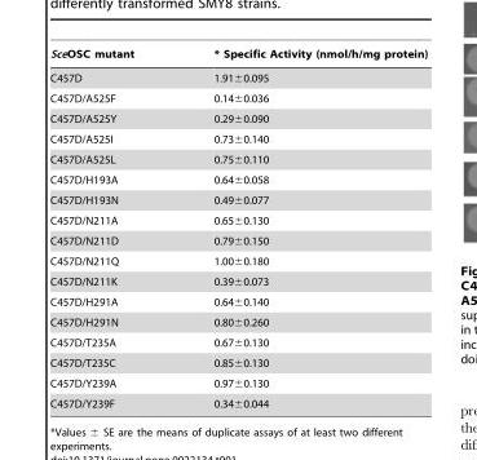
<table><thead><tr><td>SceOSC mutant</td><td>* Specific Activity (nmol/h/mg protein)</td></tr></thead><tbody><tr><td>C457D</td><td>1.91±0.095</td></tr><tr><td>C457D/A525F</td><td>0.14±0.036</td></tr><tr><td>C457D/A525Y</td><td>0.29±0.090</td></tr><tr><td>C457D/A525I</td><td>0.73±0.140</td></tr><tr><td>C457D/A525L</td><td>0.75±0.110</td></tr><tr><td>C457D/H193A</td><td>0.64±0.058</td></tr><tr><td>C457D/H193N</td><td>0.49±0.077</td></tr><tr><td>C457D/N211A</td><td>0.65±0.130</td></tr><tr><td>C457D/N211D</td><td>0.79±0.150</td></tr><tr><td>C457D/N211Q</td><td>1.00±0.180</td></tr><tr><td>C457D/N211K</td><td>0.39±0.073</td></tr><tr><td>C457D/H291A</td><td>0.64±0.140</td></tr><tr><td>C457D/H291N</td><td>0.80±0.260</td></tr><tr><td>C457D/T235A</td><td>0.67±0.130</td></tr><tr><td>C457D/T235C</td><td>0.85±0.130</td></tr><tr><td>C457D/Y239A</td><td>0.97±0.130</td></tr><tr><td>C457D/Y239F</td><td>0.34±0.044</td></tr></tbody></table>